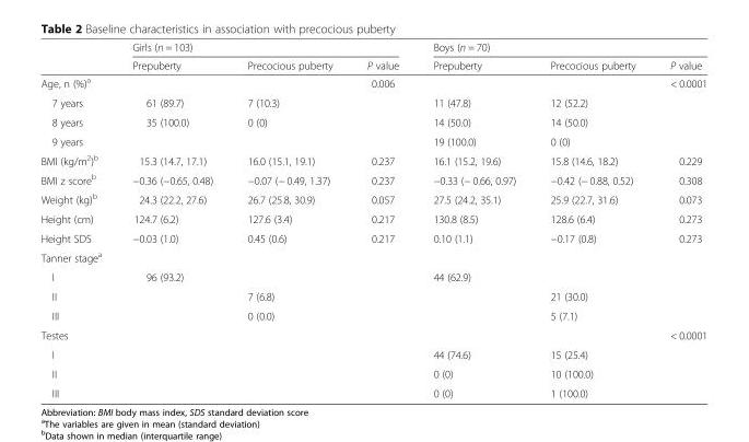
<table><thead><tr><td rowspan="2"></td><td colspan="3">Girls (n = 103)</td><td colspan="3">Boys (n = 70)</td></tr><tr><td>Prepuberty</td><td>Precocious puberty</td><td>P value</td><td>Prepuberty</td><td>Precocious puberty</td><td>P value</td></tr></thead><tbody><tr><td>Age, n (%)<sup>a</sup></td><td></td><td></td><td>0.006</td><td></td><td></td><td>&lt; 0.0001</td></tr><tr><td>7 years</td><td>61 (89.7)</td><td>7 (10.3)</td><td></td><td>11 (47.8)</td><td>12 (52.2)</td><td></td></tr><tr><td>8 years</td><td>35 (100.0)</td><td>0 (0)</td><td></td><td>14 (50.0)</td><td>14 (50.0)</td><td></td></tr><tr><td>9 years</td><td></td><td></td><td></td><td>19 (100.0)</td><td>0 (0)</td><td></td></tr><tr><td>BMI (kg/m<sup>2</sup>)<sup>b</sup></td><td>15.3 (14.7, 17.1)</td><td>16.0 (15.1, 19.1)</td><td>0.237</td><td>16.1 (15.2, 19.6)</td><td>15.8 (14.6, 18.2)</td><td>0.229</td></tr><tr><td>BMI z score<sup>b</sup></td><td>−0.36 (−0.65, 0.48)</td><td>−0.07 (− 0.49, 1.37)</td><td>0.237</td><td>−0.33 (− 0.66, 0.97)</td><td>−0.42 (− 0.88, 0.52)</td><td>0.308</td></tr><tr><td>Weight (kg)<sup>b</sup></td><td>24.3 (22.2, 27.6)</td><td>26.7 (25.8, 30.9)</td><td>0.057</td><td>27.5 (24.2, 35.1)</td><td>25.9 (22.7, 31.6)</td><td>0.073</td></tr><tr><td>Height (cm)</td><td>124.7 (6.2)</td><td>127.6 (3.4)</td><td>0.217</td><td>130.8 (8.5)</td><td>128.6 (6.4)</td><td>0.273</td></tr><tr><td>Height SDS</td><td>−0.03 (1.0)</td><td>0.45 (0.6)</td><td>0.217</td><td>0.10 (1.1)</td><td>−0.17 (0.8)</td><td>0.273</td></tr><tr><td colspan="7">Tanner stage<sup>a</sup></td></tr><tr><td>I</td><td>96 (93.2)</td><td></td><td></td><td>44 (62.9)</td><td></td><td></td></tr><tr><td>II</td><td></td><td>7 (6.8)</td><td></td><td></td><td>21 (30.0)</td><td></td></tr><tr><td>III</td><td></td><td>0 (0.0)</td><td></td><td></td><td>5 (7.1)</td><td></td></tr><tr><td>Testes</td><td></td><td></td><td></td><td></td><td></td><td>&lt; 0.0001</td></tr><tr><td>I</td><td></td><td></td><td></td><td>44 (74.6)</td><td>15 (25.4)</td><td></td></tr><tr><td>II</td><td></td><td></td><td></td><td>0 (0)</td><td>10 (100.0)</td><td></td></tr><tr><td>III</td><td></td><td></td><td></td><td>0 (0)</td><td>1 (100.0)</td><td></td></tr></tbody></table>